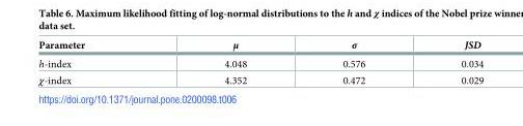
<table><thead><tr><td>Parameter</td><td>μ</td><td>σ</td><td>JSD</td></tr></thead><tbody><tr><td>h-index</td><td>4.048</td><td>0.576</td><td>0.034</td></tr><tr><td>χ-index</td><td>4.352</td><td>0.472</td><td>0.029</td></tr></tbody></table>